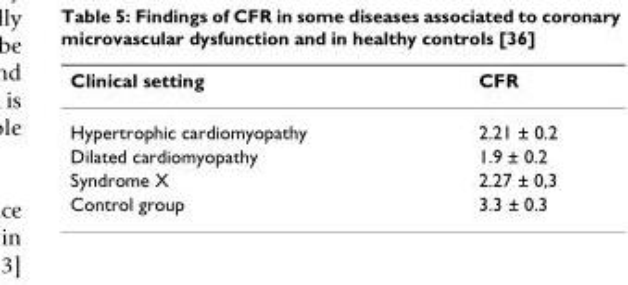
<table><thead><tr><td>Clinical setting</td><td>CFR</td></tr></thead><tbody><tr><td>Hypertrophic cardiomyopathy</td><td>2.21 ± 0.2</td></tr><tr><td>Dilated cardiomyopathy</td><td>1.9 ± 0.2</td></tr><tr><td>Syndrome X</td><td>2.27 ± 0,3</td></tr><tr><td>Control group</td><td>3.3 ± 0.3</td></tr></tbody></table>